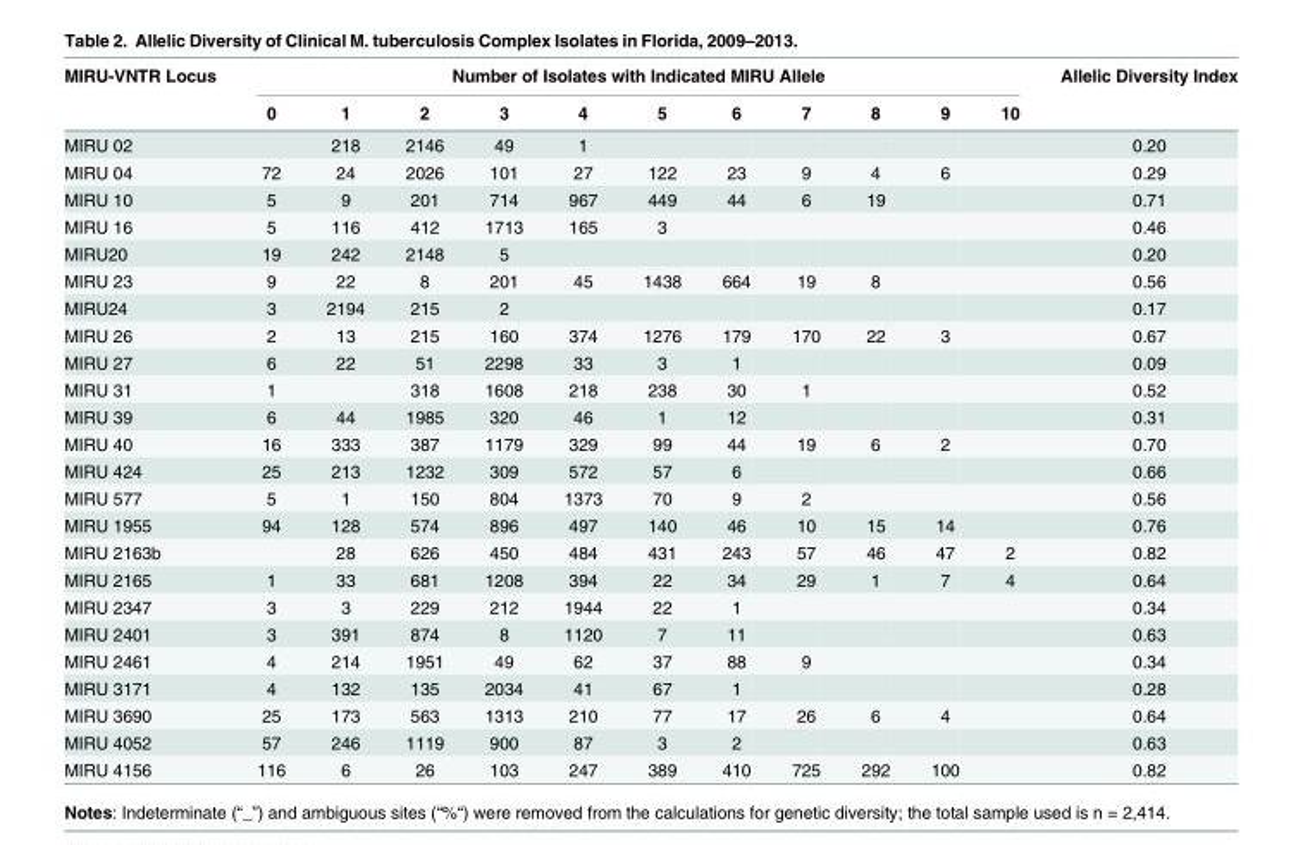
<table><thead><tr><td rowspan="2">MIRU-VNTR Locus</td><td colspan="11">Number of Isolates with Indicated MIRU Allele</td><td rowspan="2">Allelic Diversity Index</td></tr><tr><td>0</td><td>1</td><td>2</td><td>3</td><td>4</td><td>5</td><td>6</td><td>7</td><td>8</td><td>9</td><td>10</td></tr></thead><tbody><tr><td>MIRU 02</td><td></td><td>218</td><td>2146</td><td>49</td><td>1</td><td></td><td></td><td></td><td></td><td></td><td></td><td>0.20</td></tr><tr><td>MIRU 04</td><td>72</td><td>24</td><td>2026</td><td>101</td><td>27</td><td>122</td><td>23</td><td>9</td><td>4</td><td>6</td><td></td><td>0.29</td></tr><tr><td>MIRU 10</td><td>5</td><td>9</td><td>201</td><td>714</td><td>967</td><td>449</td><td>44</td><td>6</td><td>19</td><td></td><td></td><td>0.71</td></tr><tr><td>MIRU 16</td><td>5</td><td>116</td><td>412</td><td>1713</td><td>165</td><td>3</td><td></td><td></td><td></td><td></td><td></td><td>0.46</td></tr><tr><td>MIRU20</td><td>19</td><td>242</td><td>2148</td><td>5</td><td></td><td></td><td></td><td></td><td></td><td></td><td></td><td>0.20</td></tr><tr><td>MIRU 23</td><td>9</td><td>22</td><td>8</td><td>201</td><td>45</td><td>1438</td><td>664</td><td>19</td><td>8</td><td></td><td></td><td>0.56</td></tr><tr><td>MIRU24</td><td>3</td><td>2194</td><td>215</td><td>2</td><td></td><td></td><td></td><td></td><td></td><td></td><td></td><td>0.17</td></tr><tr><td>MIRU 26</td><td>2</td><td>13</td><td>215</td><td>160</td><td>374</td><td>1276</td><td>179</td><td>170</td><td>22</td><td>3</td><td></td><td>0.67</td></tr><tr><td>MIRU 27</td><td>6</td><td>22</td><td>51</td><td>2298</td><td>33</td><td>3</td><td>1</td><td></td><td></td><td></td><td></td><td>0.09</td></tr><tr><td>MIRU 31</td><td>1</td><td></td><td>318</td><td>1608</td><td>218</td><td>238</td><td>30</td><td>1</td><td></td><td></td><td></td><td>0.52</td></tr><tr><td>MIRU 39</td><td>6</td><td>44</td><td>1985</td><td>320</td><td>46</td><td>1</td><td>12</td><td></td><td></td><td></td><td></td><td>0.31</td></tr><tr><td>MIRU 40</td><td>16</td><td>333</td><td>387</td><td>1179</td><td>329</td><td>99</td><td>44</td><td>19</td><td>6</td><td>2</td><td></td><td>0.70</td></tr><tr><td>MIRU 424</td><td>25</td><td>213</td><td>1232</td><td>309</td><td>572</td><td>57</td><td>6</td><td></td><td></td><td></td><td></td><td>0.66</td></tr><tr><td>MIRU 577</td><td>5</td><td>1</td><td>150</td><td>804</td><td>1373</td><td>70</td><td>9</td><td>2</td><td></td><td></td><td></td><td>0.56</td></tr><tr><td>MIRU 1955</td><td>94</td><td>128</td><td>574</td><td>896</td><td>497</td><td>140</td><td>46</td><td>10</td><td>15</td><td>14</td><td></td><td>0.76</td></tr><tr><td>MIRU 2163b</td><td></td><td>28</td><td>626</td><td>450</td><td>484</td><td>431</td><td>243</td><td>57</td><td>46</td><td>47</td><td>2</td><td>0.82</td></tr><tr><td>MIRU 2165</td><td>1</td><td>33</td><td>681</td><td>1208</td><td>394</td><td>22</td><td>34</td><td>29</td><td>1</td><td>7</td><td>4</td><td>0.64</td></tr><tr><td>MIRU 2347</td><td>3</td><td>3</td><td>229</td><td>212</td><td>1944</td><td>22</td><td>1</td><td></td><td></td><td></td><td></td><td>0.34</td></tr><tr><td>MIRU 2401</td><td>3</td><td>391</td><td>874</td><td>8</td><td>1120</td><td>7</td><td>11</td><td></td><td></td><td></td><td></td><td>0.63</td></tr><tr><td>MIRU 2461</td><td>4</td><td>214</td><td>1951</td><td>49</td><td>62</td><td>37</td><td>88</td><td>9</td><td></td><td></td><td></td><td>0.34</td></tr><tr><td>MIRU 3171</td><td>4</td><td>132</td><td>135</td><td>2034</td><td>41</td><td>67</td><td>1</td><td></td><td></td><td></td><td></td><td>0.28</td></tr><tr><td>MIRU 3690</td><td>25</td><td>173</td><td>563</td><td>1313</td><td>210</td><td>77</td><td>17</td><td>26</td><td>6</td><td>4</td><td></td><td>0.64</td></tr><tr><td>MIRU 4052</td><td>57</td><td>246</td><td>1119</td><td>900</td><td>87</td><td>3</td><td>2</td><td></td><td></td><td></td><td></td><td>0.63</td></tr><tr><td>MIRU 4156</td><td>116</td><td>6</td><td>26</td><td>103</td><td>247</td><td>389</td><td>410</td><td>725</td><td>292</td><td>100</td><td></td><td>0.82</td></tr></tbody></table>